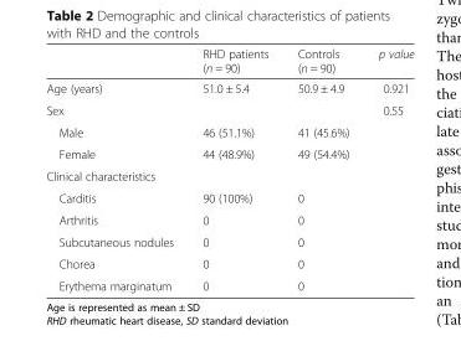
<table><thead><tr><td></td><td>RHD patients (n = 90)</td><td>Controls (n = 90)</td><td>p value</td></tr></thead><tbody><tr><td>Age (years)</td><td>51.0 ± 5.4</td><td>50.9 ± 4.9</td><td>0.921</td></tr><tr><td>Sex</td><td></td><td></td><td>0.55</td></tr><tr><td>Male</td><td>46 (51.1%)</td><td>41 (45.6%)</td><td></td></tr><tr><td>Female</td><td>44 (48.9%)</td><td>49 (54.4%)</td><td></td></tr><tr><td colspan="4">Clinical characteristics</td></tr><tr><td>Carditis</td><td>90 (100%)</td><td>0</td><td></td></tr><tr><td>Arthritis</td><td>0</td><td>0</td><td></td></tr><tr><td>Subcutaneous nodules</td><td>0</td><td>0</td><td></td></tr><tr><td>Chorea</td><td>0</td><td>0</td><td></td></tr><tr><td>Erythema marginatum</td><td>0</td><td>0</td><td></td></tr></tbody></table>